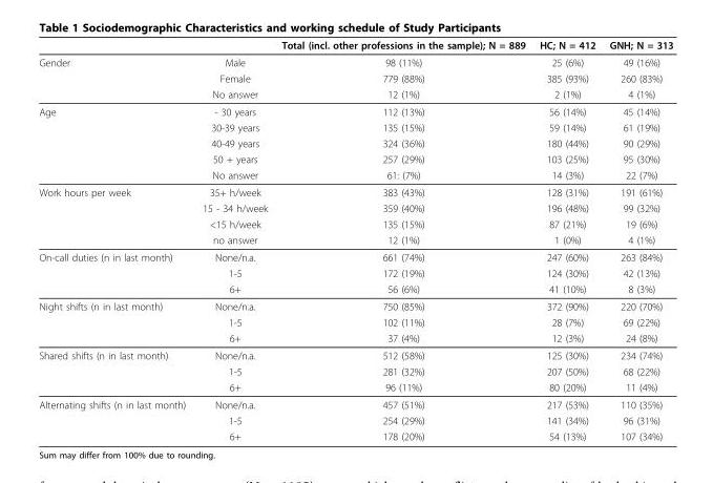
<table><thead><tr><td></td><td></td><td>Total (incl. other professions in the sample); N = 889</td><td>HC; N = 412</td><td>GNH; N = 313</td></tr></thead><tbody><tr><td rowspan="3">Gender</td><td>Male</td><td>98 (11%)</td><td>25 (6%)</td><td>49 (16%)</td></tr><tr><td>Female</td><td>779 (88%)</td><td>385 (93%)</td><td>260 (83%)</td></tr><tr><td>No answer</td><td>12 (1%)</td><td>2 (1%)</td><td>4 (1%)</td></tr><tr><td rowspan="5">Age</td><td>- 30 years</td><td>112 (13%)</td><td>56 (14%)</td><td>45 (14%)</td></tr><tr><td>30-39 years</td><td>135 (15%)</td><td>59 (14%)</td><td>61 (19%)</td></tr><tr><td>40-49 years</td><td>324 (36%)</td><td>180 (44%)</td><td>90 (29%)</td></tr><tr><td>50 + years</td><td>257 (29%)</td><td>103 (25%)</td><td>95 (30%)</td></tr><tr><td>No answer</td><td>61: (7%)</td><td>14 (3%)</td><td>22 (7%)</td></tr><tr><td rowspan="4">Work hours per week</td><td>35+ h/week</td><td>383 (43%)</td><td>128 (31%)</td><td>191 (61%)</td></tr><tr><td>15 - 34 h/week</td><td>359 (40%)</td><td>196 (48%)</td><td>99 (32%)</td></tr><tr><td>&lt;15 h/week</td><td>135 (15%)</td><td>87 (21%)</td><td>19 (6%)</td></tr><tr><td>no answer</td><td>12 (1%)</td><td>1 (0%)</td><td>4 (1%)</td></tr><tr><td rowspan="3">On-call duties (n in last month)</td><td>None/n.a.</td><td>661 (74%)</td><td>247 (60%)</td><td>263 (84%)</td></tr><tr><td>1-5</td><td>172 (19%)</td><td>124 (30%)</td><td>42 (13%)</td></tr><tr><td>6+</td><td>56 (6%)</td><td>41 (10%)</td><td>8 (3%)</td></tr><tr><td rowspan="3">Night shifts (n in last month)</td><td>None/n.a.</td><td>750 (85%)</td><td>372 (90%)</td><td>220 (70%)</td></tr><tr><td>1-5</td><td>102 (11%)</td><td>28 (7%)</td><td>69 (22%)</td></tr><tr><td>6+</td><td>37 (4%)</td><td>12 (3%)</td><td>24 (8%)</td></tr><tr><td rowspan="3">Shared shifts (n in last month)</td><td>None/n.a.</td><td>512 (58%)</td><td>125 (30%)</td><td>234 (74%)</td></tr><tr><td>1-5</td><td>281 (32%)</td><td>207 (50%)</td><td>68 (22%)</td></tr><tr><td>6+</td><td>96 (11%)</td><td>80 (20%)</td><td>11 (4%)</td></tr><tr><td rowspan="3">Alternating shifts (n in last month)</td><td>None/n.a.</td><td>457 (51%)</td><td>217 (53%)</td><td>110 (35%)</td></tr><tr><td>1-5</td><td>254 (29%)</td><td>141 (34%)</td><td>96 (31%)</td></tr><tr><td>6+</td><td>178 (20%)</td><td>54 (13%)</td><td>107 (34%)</td></tr></tbody></table>